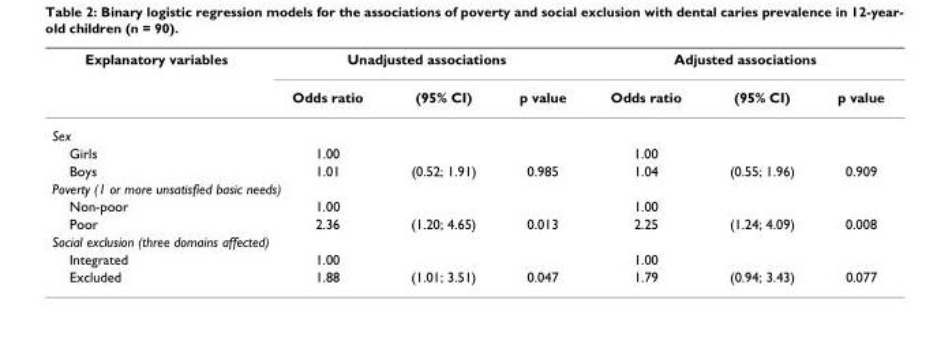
<table><thead><tr><td rowspan="2">Explanatory variables</td><td colspan="3">Unadjusted associations</td><td colspan="3">Adjusted associations</td></tr><tr><td>Odds ratio</td><td>(95% CI)</td><td>p value</td><td>Odds ratio</td><td>(95% CI)</td><td>p value</td></tr></thead><tbody><tr><td colspan="7">Sex</td></tr><tr><td>Girls</td><td>1.00</td><td></td><td></td><td>1.00</td><td></td><td></td></tr><tr><td>Boys</td><td>1.01</td><td>(0.52; 1.91)</td><td>0.985</td><td>1.04</td><td>(0.55; 1.96)</td><td>0.909</td></tr><tr><td colspan="7">Poverty (1 or more unsatisfied basic needs)</td></tr><tr><td>Non-poor</td><td>1.00</td><td></td><td></td><td>1.00</td><td></td><td></td></tr><tr><td>Poor</td><td>2.36</td><td>(1.20; 4.65)</td><td>0.013</td><td>2.25</td><td>(1.24; 4.09)</td><td>0.008</td></tr><tr><td colspan="7">Social exclusion (three domains affected)</td></tr><tr><td>Integrated</td><td>1.00</td><td></td><td></td><td>1.00</td><td></td><td></td></tr><tr><td>Excluded</td><td>1.88</td><td>(1.01; 3.51)</td><td>0.047</td><td>1.79</td><td>(0.94; 3.43)</td><td>0.077</td></tr></tbody></table>